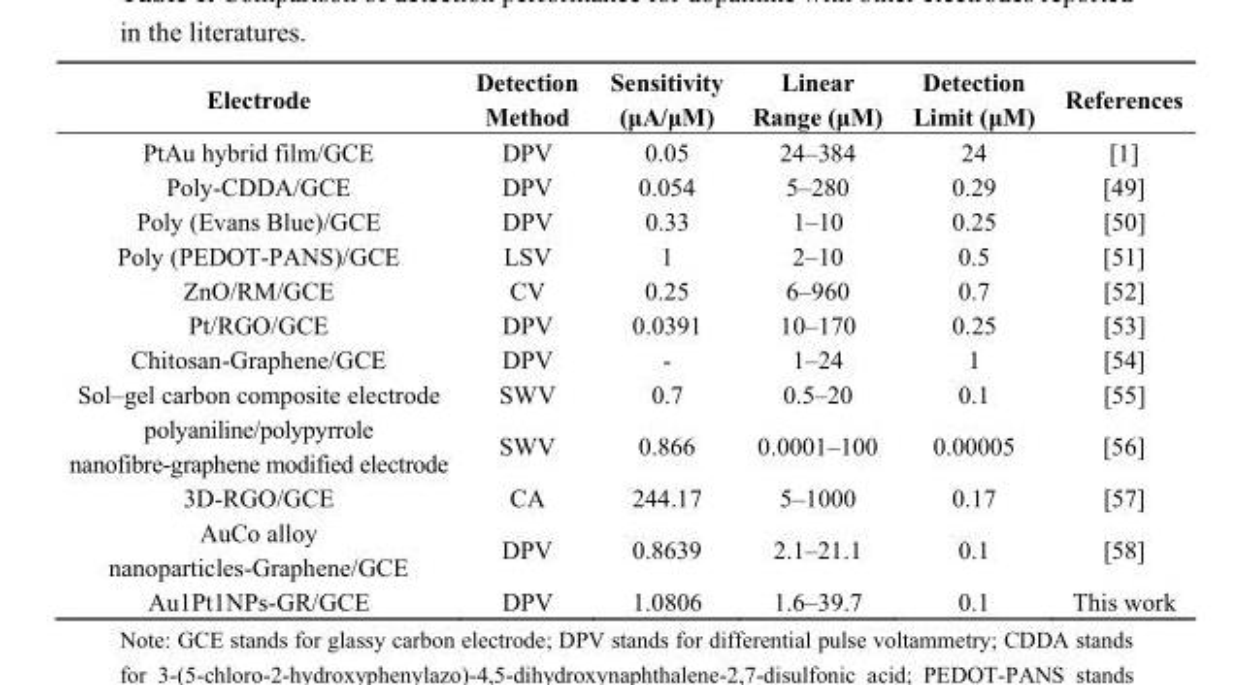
<table><thead><tr><td>Electrode</td><td>Detection Method</td><td>Sensitivity (μA/μM)</td><td>Linear Range (μM)</td><td>Detection Limit (μM)</td><td>References</td></tr></thead><tbody><tr><td>PtAu hybrid film/GCE</td><td>DPV</td><td>0.05</td><td>24–384</td><td>24</td><td>[1]</td></tr><tr><td>Poly-CDDA/GCE</td><td>DPV</td><td>0.054</td><td>5–280</td><td>0.29</td><td>[49]</td></tr><tr><td>Poly (Evans Blue)/GCE</td><td>DPV</td><td>0.33</td><td>1–10</td><td>0.25</td><td>[50]</td></tr><tr><td>Poly (PEDOT-PANS)/GCE</td><td>LSV</td><td>1</td><td>2–10</td><td>0.5</td><td>[51]</td></tr><tr><td>ZnO/RM/GCE</td><td>CV</td><td>0.25</td><td>6–960</td><td>0.7</td><td>[52]</td></tr><tr><td>Pt/RGO/GCE</td><td>DPV</td><td>0.0391</td><td>10–170</td><td>0.25</td><td>[53]</td></tr><tr><td>Chitosan-Graphene/GCE</td><td>DPV</td><td>-</td><td>1–24</td><td>1</td><td>[54]</td></tr><tr><td>Sol–gel carbon composite electrode</td><td>SWV</td><td>0.7</td><td>0.5–20</td><td>0.1</td><td>[55]</td></tr><tr><td>polyaniline/polypyrrole nanofibre-graphene modified electrode</td><td>SWV</td><td>0.866</td><td>0.0001–100</td><td>0.00005</td><td>[56]</td></tr><tr><td>3D-RGO/GCE</td><td>CA</td><td>244.17</td><td>5–1000</td><td>0.17</td><td>[57]</td></tr><tr><td>AuCo alloy nanoparticles-Graphene/GCE</td><td>DPV</td><td>0.8639</td><td>2.1–21.1</td><td>0.1</td><td>[58]</td></tr><tr><td>Au1Pt1NPs-GR/GCE</td><td>DPV</td><td>1.0806</td><td>1.6–39.7</td><td>0.1</td><td>This work</td></tr></tbody></table>